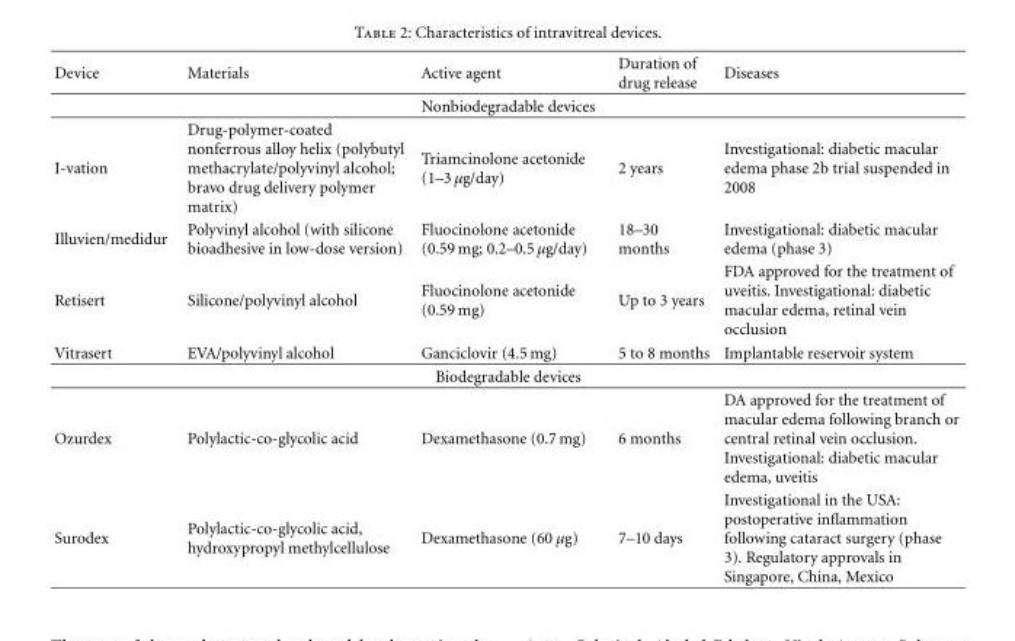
<table><thead><tr><td>Device</td><td>Materials</td><td>Active agent</td><td>Duration of drug release</td><td>Diseases</td></tr></thead><tbody><tr><td colspan="5">Nonbiodegradable devices</td></tr><tr><td>I-vation</td><td>Drug-polymer-coated nonferrous alloy helix (polybutyl methacrylate/polyvinyl alcohol; bravo drug delivery polymer matrix)</td><td>Triamcinolone acetonide (1–3 μg/day)</td><td>2 years</td><td>Investigational: diabetic macular edema phase 2b trial suspended in 2008</td></tr><tr><td>Illuvien/medidur</td><td>Polyvinyl alcohol (with silicone bioadhesive in low-dose version)</td><td>Fluocinolone acetonide (0.59 mg; 0.2–0.5 μg/day)</td><td>18–30 months</td><td>Investigational: diabetic macular edema (phase 3)</td></tr><tr><td>Retisert</td><td>Silicone/polyvinyl alcohol</td><td>Fluocinolone acetonide (0.59 mg)</td><td>Up to 3 years</td><td>FDA approved for the treatment of uveitis. Investigational: diabetic macular edema, retinal vein occlusion</td></tr><tr><td>Vitrasert</td><td>EVA/polyvinyl alcohol</td><td>Ganciclovir (4.5 mg)</td><td>5 to 8 months</td><td>Implantable reservoir system</td></tr><tr><td colspan="5">Biodegradable devices</td></tr><tr><td>Ozurdex</td><td>Polylactic-co-glycolic acid</td><td>Dexamethasone (0.7 mg)</td><td>6 months</td><td>DA approved for the treatment of macular edema following branch or central retinal vein occlusion. Investigational: diabetic macular edema, uveitis</td></tr><tr><td>Surodex</td><td>Polylactic-co-glycolic acid, hydroxypropyl methylcellulose</td><td>Dexamethasone (60 μg)</td><td>7–10 days</td><td>Investigational in the USA: postoperative inflammation following cataract surgery (phase 3). Regulatory approvals in Singapore, China, Mexico</td></tr></tbody></table>